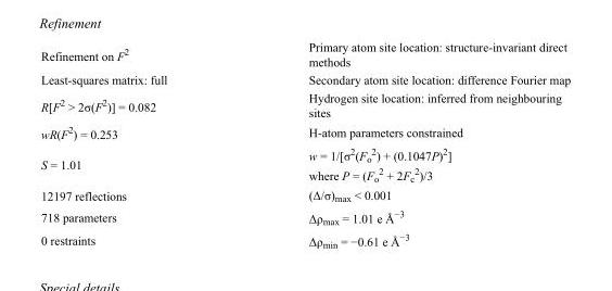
<table><tbody><tr><td>Refinement on F<sup>2</sup></td><td>Primary atom site location: structure-invariant direct methods</td></tr><tr><td>Least-squares matrix: full</td><td>Secondary atom site location: difference Fourier map</td></tr><tr><td>R[F<sup>2</sup> &gt; 2σ(F<sup>2</sup>)] = 0.082</td><td>Hydrogen site location: inferred from neighbouring sites</td></tr><tr><td>wR(F<sup>2</sup>) = 0.253</td><td>H-atom parameters constrained</td></tr><tr><td>S = 1.01</td><td>w = 1/[σ<sup>2</sup>(F<sub>o</sub> <sup>2</sup>) + (0.1047P)<sup>2</sup>] where P = (F<sub>o</sub> <sup>2</sup> + 2F<sub>c</sub> <sup>2</sup>)/3</td></tr><tr><td>12197 reflections</td><td>(Δ/σ)<sub>max</sub> &lt; 0.001</td></tr><tr><td>718 parameters</td><td>Δρ<sub>max</sub> = 1.01 e Å<sup>−3</sup></td></tr><tr><td>0 restraints</td><td>Δρ<sub>min</sub> = −0.61 e Å<sup>−3</sup></td></tr></tbody></table>